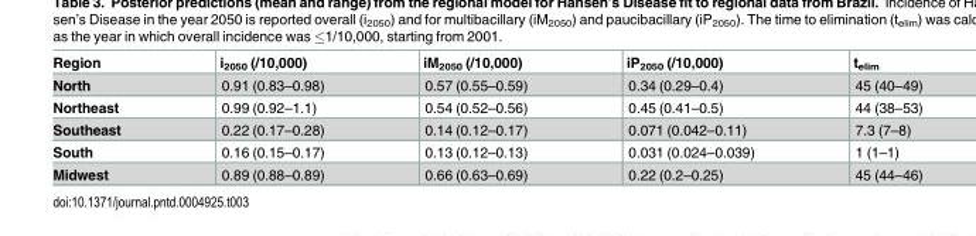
<table><thead><tr><td>Region</td><td>i<sub>2050</sub> (/10,000)</td><td>iM<sub>2050</sub> (/10,000)</td><td>iP<sub>2050</sub> (/10,000)</td><td>t<sub>elim</sub></td></tr></thead><tbody><tr><td>North</td><td>0.91 (0.83–0.98)</td><td>0.57 (0.55–0.59)</td><td>0.34 (0.29–0.4)</td><td>45 (40–49)</td></tr><tr><td>Northeast</td><td>0.99 (0.92–1.1)</td><td>0.54 (0.52–0.56)</td><td>0.45 (0.41–0.5)</td><td>44 (38–53)</td></tr><tr><td>Southeast</td><td>0.22 (0.17–0.28)</td><td>0.14 (0.12–0.17)</td><td>0.071 (0.042–0.11)</td><td>7.3 (7–8)</td></tr><tr><td>South</td><td>0.16 (0.15–0.17)</td><td>0.13 (0.12–0.13)</td><td>0.031 (0.024–0.039)</td><td>1 (1–1)</td></tr><tr><td>Midwest</td><td>0.89 (0.88–0.89)</td><td>0.66 (0.63–0.69)</td><td>0.22 (0.2–0.25)</td><td>45 (44–46)</td></tr></tbody></table>